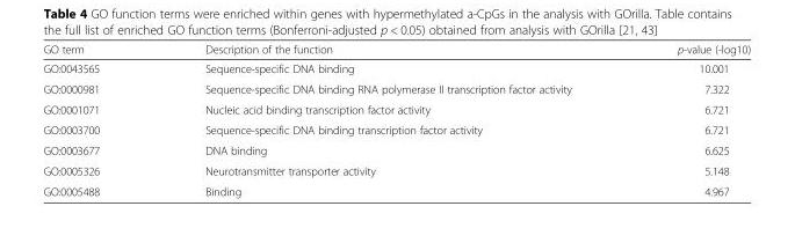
<table><thead><tr><td>GO term</td><td>Description of the function</td><td>p-value (-log10)</td></tr></thead><tbody><tr><td>GO:0043565</td><td>Sequence-specific DNA binding</td><td>10.001</td></tr><tr><td>GO:0000981</td><td>Sequence-specific DNA binding RNA polymerase II transcription factor activity</td><td>7.322</td></tr><tr><td>GO:0001071</td><td>Nucleic acid binding transcription factor activity</td><td>6.721</td></tr><tr><td>GO:0003700</td><td>Sequence-specific DNA binding transcription factor activity</td><td>6.721</td></tr><tr><td>GO:0003677</td><td>DNA binding</td><td>6.625</td></tr><tr><td>GO:0005326</td><td>Neurotransmitter transporter activity</td><td>5.148</td></tr><tr><td>GO:0005488</td><td>Binding</td><td>4.967</td></tr></tbody></table>